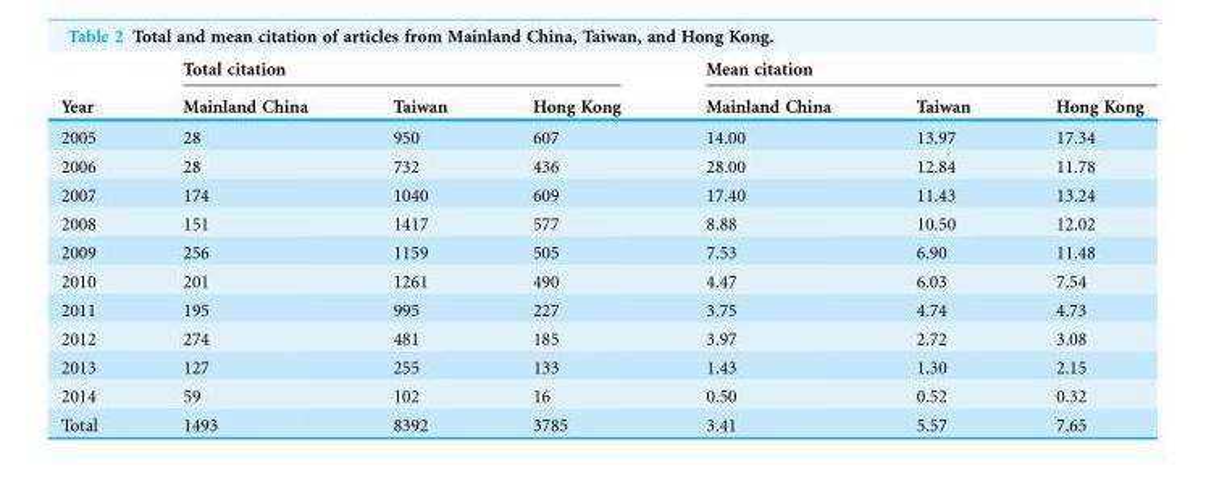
<table><thead><tr><td rowspan="2">Year</td><td colspan="3">Total citation</td><td colspan="3">Mean citation</td></tr><tr><td>Mainland China</td><td>Taiwan</td><td>Hong Kong</td><td>Mainland China</td><td>Taiwan</td><td>Hong Kong</td></tr></thead><tbody><tr><td>2005</td><td>28</td><td>950</td><td>607</td><td>14.00</td><td>13.97</td><td>17.34</td></tr><tr><td>2006</td><td>28</td><td>732</td><td>436</td><td>28.00</td><td>12.84</td><td>11.78</td></tr><tr><td>2007</td><td>174</td><td>1040</td><td>609</td><td>17.40</td><td>11.43</td><td>13.24</td></tr><tr><td>2008</td><td>151</td><td>1417</td><td>577</td><td>8.88</td><td>10.50</td><td>12.02</td></tr><tr><td>2009</td><td>256</td><td>1159</td><td>505</td><td>7.53</td><td>6.90</td><td>11.48</td></tr><tr><td>2010</td><td>201</td><td>1261</td><td>490</td><td>4.47</td><td>6.03</td><td>7.54</td></tr><tr><td>2011</td><td>195</td><td>995</td><td>227</td><td>3.75</td><td>4.74</td><td>4.73</td></tr><tr><td>2012</td><td>274</td><td>481</td><td>185</td><td>3.97</td><td>2.72</td><td>3.08</td></tr><tr><td>2013</td><td>127</td><td>255</td><td>133</td><td>1.43</td><td>1.30</td><td>2.15</td></tr><tr><td>2014</td><td>59</td><td>102</td><td>16</td><td>0.50</td><td>0.52</td><td>0.32</td></tr><tr><td>Total</td><td>1493</td><td>8392</td><td>3785</td><td>3.41</td><td>5.57</td><td>7.65</td></tr></tbody></table>